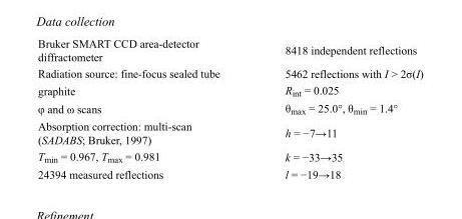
<table><tbody><tr><td>Bruker SMART CCD area-detector diffractometer</td><td>8418 independent reflections</td></tr><tr><td>Radiation source: fine-focus sealed tube</td><td>5462 reflections with I &gt; 2σ(I)</td></tr><tr><td>graphite</td><td>R<sub>int</sub> = 0.025</td></tr><tr><td>φ and ω scans</td><td>θ<sub>max</sub> = 25.0°, θ<sub>min</sub> = 1.4°</td></tr><tr><td>Absorption correction: multi-scan (SADABS; Bruker, 1997)</td><td>h = −7→11</td></tr><tr><td>T<sub>min</sub> = 0.967, T<sub>max</sub> = 0.981</td><td>k = −33→35</td></tr><tr><td>24394 measured reflections</td><td>l = −19→18</td></tr></tbody></table>